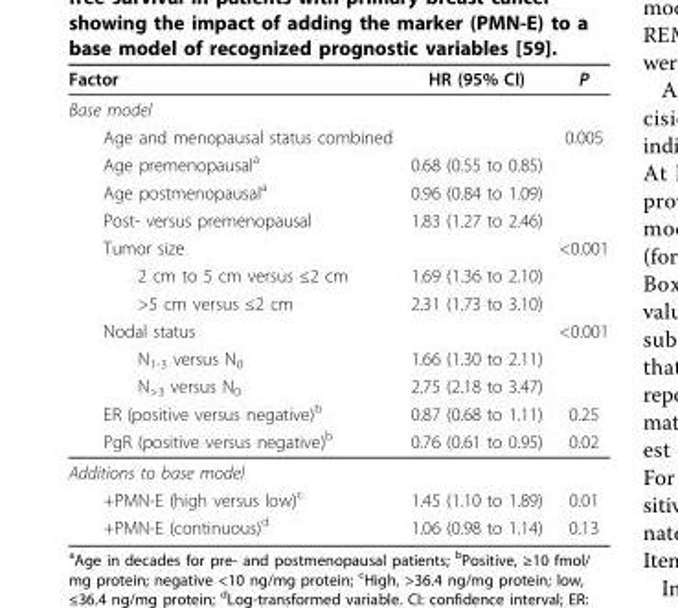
<table><thead><tr><td>Factor</td><td>HR (95% CI)</td><td>P</td></tr></thead><tbody><tr><td colspan="3">Base model</td></tr><tr><td>Age and menopausal status combined</td><td></td><td>0.005</td></tr><tr><td>Age premenopausal<sup>a</sup></td><td>0.68 (0.55 to 0.85)</td><td></td></tr><tr><td>Age postmenopausal<sup>a</sup></td><td>0.96 (0.84 to 1.09)</td><td></td></tr><tr><td>Post- versus premenopausal</td><td>1.83 (1.27 to 2.46)</td><td></td></tr><tr><td>Tumor size</td><td></td><td>&lt;0.001</td></tr><tr><td>2 cm to 5 cm versus ≤2 cm</td><td>1.69 (1.36 to 2.10)</td><td></td></tr><tr><td>&gt;5 cm versus ≤2 cm</td><td>2.31 (1.73 to 3.10)</td><td></td></tr><tr><td>Nodal status</td><td></td><td>&lt;0.001</td></tr><tr><td>N<sub>1-3</sub> versus N<sub>0</sub></td><td>1.66 (1.30 to 2.11)</td><td></td></tr><tr><td>N<sub>&gt;3</sub> versus N<sub>0</sub></td><td>2.75 (2.18 to 3.47)</td><td></td></tr><tr><td>ER (positive versus negative)<sup>b</sup></td><td>0.87 (0.68 to 1.11)</td><td>0.25</td></tr><tr><td>PgR (positive versus negative)<sup>b</sup></td><td>0.76 (0.61 to 0.95)</td><td>0.02</td></tr><tr><td colspan="3">Additions to base model</td></tr><tr><td>+PMN-E (high versus low)<sup>c</sup></td><td>1.45 (1.10 to 1.89)</td><td>0.01</td></tr><tr><td>+PMN-E (continuous)<sup>d</sup></td><td>1.06 (0.98 to 1.14)</td><td>0.13</td></tr></tbody></table>